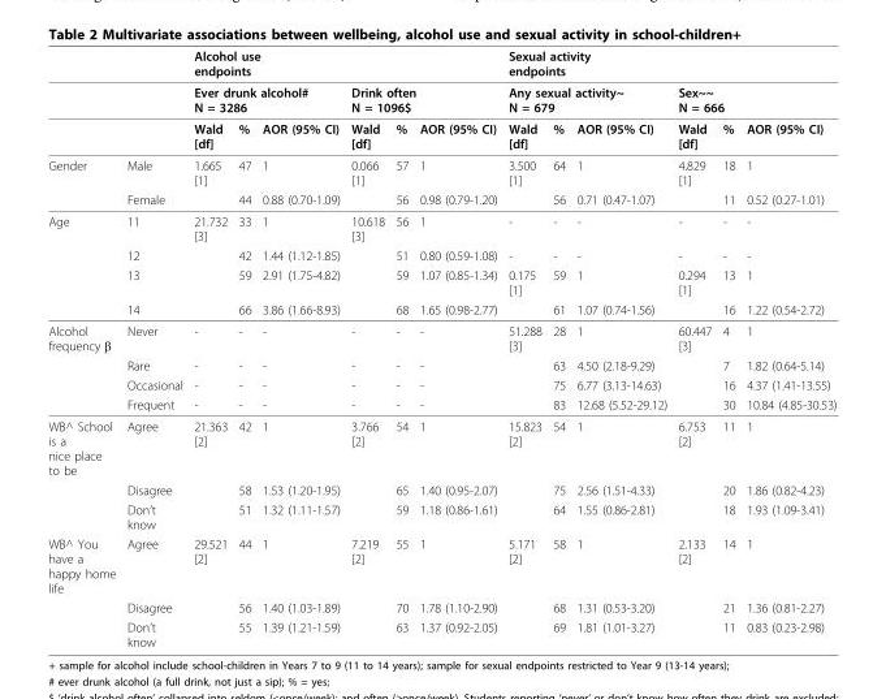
<table><thead><tr><td rowspan="3"></td><td rowspan="3"></td><td colspan="6">Alcohol use endpoints</td><td colspan="6">Sexual activity endpoints</td></tr><tr><td colspan="3">Ever drunk alcohol# N = 3286</td><td colspan="3">Drink often N = 1096$</td><td colspan="3">Any sexual activity~ N = 679</td><td colspan="3">Sex~~ N = 666</td></tr><tr><td>Wald [df]</td><td>%</td><td>AOR (95% CI)</td><td>Wald [df]</td><td>%</td><td>AOR (95% CI)</td><td>Wald [df]</td><td>%</td><td>AOR (95% CI)</td><td>Wald [df]</td><td>%</td><td>AOR (95% CI)</td></tr></thead><tbody><tr><td rowspan="2">Gender</td><td>Male</td><td>1.665 [1]</td><td>47</td><td>1</td><td>0.066 [1]</td><td>57</td><td>1</td><td>3.500 [1]</td><td>64</td><td>1</td><td>4.829 [1]</td><td>18</td><td>1</td></tr><tr><td>Female</td><td></td><td>44</td><td>0.88 (0.70-1.09)</td><td></td><td>56</td><td>0.98 (0.79-1.20)</td><td></td><td>56</td><td>0.71 (0.47-1.07)</td><td></td><td>11</td><td>0.52 (0.27-1.01)</td></tr><tr><td rowspan="4">Age</td><td>11</td><td>21.732 [3]</td><td>33</td><td>1</td><td>10.618 [3]</td><td>56</td><td>1</td><td>-</td><td>-</td><td>-</td><td>-</td><td>-</td><td>-</td></tr><tr><td>12</td><td></td><td>42</td><td>1.44 (1.12-1.85)</td><td></td><td>51</td><td>0.80 (0.59-1.08)</td><td>-</td><td>-</td><td>-</td><td>-</td><td>-</td><td>-</td></tr><tr><td>13</td><td></td><td>59</td><td>2.91 (1.75-4.82)</td><td></td><td>59</td><td>1.07 (0.85-1.34)</td><td>0.175 [1]</td><td>59</td><td>1</td><td>0.294 [1]</td><td>13</td><td>1</td></tr><tr><td>14</td><td></td><td>66</td><td>3.86 (1.66-8.93)</td><td></td><td>68</td><td>1.65 (0.98-2.77)</td><td></td><td>61</td><td>1.07 (0.74-1.56)</td><td></td><td>16</td><td>1.22 (0.54-2.72)</td></tr><tr><td rowspan="4">Alcohol frequency β</td><td>Never</td><td>-</td><td>-</td><td>-</td><td>-</td><td>-</td><td>-</td><td>51.288 [3]</td><td>28</td><td>1</td><td>60.447 [3]</td><td>4</td><td>1</td></tr><tr><td>Rare</td><td>-</td><td>-</td><td>-</td><td>-</td><td>-</td><td>-</td><td></td><td>63</td><td>4.50 (2.18-9.29)</td><td></td><td>7</td><td>1.82 (0.64-5.14)</td></tr><tr><td>Occasional</td><td>-</td><td>-</td><td>-</td><td>-</td><td>-</td><td>-</td><td></td><td>75</td><td>6.77 (3.13-14.63)</td><td></td><td>16</td><td>4.37 (1.41-13.55)</td></tr><tr><td>Frequent</td><td>-</td><td>-</td><td>-</td><td>-</td><td>-</td><td>-</td><td></td><td>83</td><td>12.68 (5.52-29.12)</td><td></td><td>30</td><td>10.84 (4.85-30.53)</td></tr><tr><td rowspan="3">WB^ School is a nice place to be</td><td>Agree</td><td>21.363 [2]</td><td>42</td><td>1</td><td>3.766 [2]</td><td>54</td><td>1</td><td>15.823 [2]</td><td>54</td><td>1</td><td>6.753 [2]</td><td>11</td><td>1</td></tr><tr><td>Disagree</td><td></td><td>58</td><td>1.53 (1.20-1.95)</td><td></td><td>65</td><td>1.40 (0.95-2.07)</td><td></td><td>75</td><td>2.56 (1.51-4.33)</td><td></td><td>20</td><td>1.86 (0.82-4.23)</td></tr><tr><td>Don’t know</td><td></td><td>51</td><td>1.32 (1.11-1.57)</td><td></td><td>59</td><td>1.18 (0.86-1.61)</td><td></td><td>64</td><td>1.55 (0.86-2.81)</td><td></td><td>18</td><td>1.93 (1.09-3.41)</td></tr><tr><td rowspan="3">WB^ You have a happy home life</td><td>Agree</td><td>29.521 [2]</td><td>44</td><td>1</td><td>7.219 [2]</td><td>55</td><td>1</td><td>5.171 [2]</td><td>58</td><td>1</td><td>2.133 [2]</td><td>14</td><td>1</td></tr><tr><td>Disagree</td><td></td><td>56</td><td>1.40 (1.03-1.89)</td><td></td><td>70</td><td>1.78 (1.10-2.90)</td><td></td><td>68</td><td>1.31 (0.53-3.20)</td><td></td><td>21</td><td>1.36 (0.81-2.27)</td></tr><tr><td>Don’t know</td><td></td><td>55</td><td>1.39 (1.21-1.59)</td><td></td><td>63</td><td>1.37 (0.92-2.05)</td><td></td><td>69</td><td>1.81 (1.01-3.27)</td><td></td><td>11</td><td>0.83 (0.23-2.98)</td></tr></tbody></table>